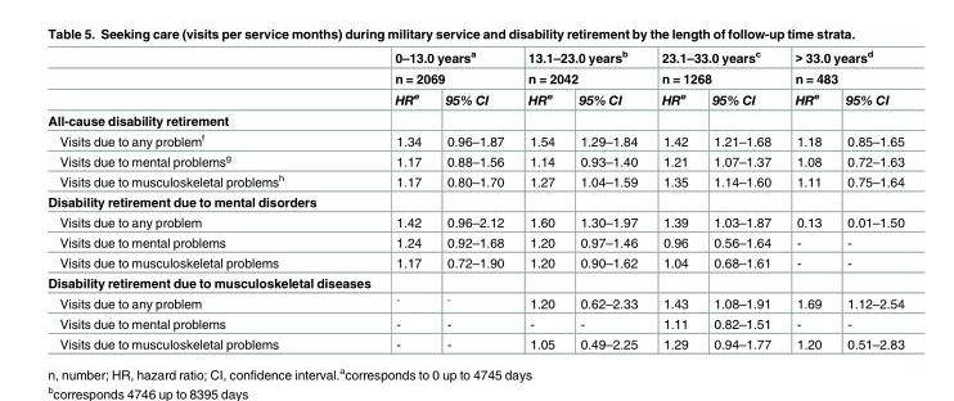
<table><thead><tr><td rowspan="3"></td><td rowspan="2" colspan="2">0–13.0 years<sup>a</sup> n = 2069</td><td rowspan="2" colspan="2">13.1–23.0 years<sup>b</sup> n = 2042</td><td rowspan="2" colspan="2">23.1–33.0 years<sup>c</sup> n = 1268</td><td rowspan="2" colspan="2">&gt; 33.0 years<sup>d</sup> n = 483</td></tr><tr></tr><tr><td>HR<sup>e</sup></td><td>95% CI</td><td>HR<sup>e</sup></td><td>95% CI</td><td>HR<sup>e</sup></td><td>95% CI</td><td>HR<sup>e</sup></td><td>95% CI</td></tr></thead><tbody><tr><td colspan="9">All-cause disability retirement</td></tr><tr><td>Visits due to any problem<sup>f</sup></td><td>1.34</td><td>0.96–1.87</td><td>1.54</td><td>1.29–1.84</td><td>1.42</td><td>1.21–1.68</td><td>1.18</td><td>0.85–1.65</td></tr><tr><td>Visits due to mental problems<sup>g</sup></td><td>1.17</td><td>0.88–1.56</td><td>1.14</td><td>0.93–1.40</td><td>1.21</td><td>1.07–1.37</td><td>1.08</td><td>0.72–1.63</td></tr><tr><td>Visits due to musculoskeletal problems<sup>h</sup></td><td>1.17</td><td>0.80–1.70</td><td>1.27</td><td>1.04–1.59</td><td>1.35</td><td>1.14–1.60</td><td>1.11</td><td>0.75–1.64</td></tr><tr><td colspan="9">Disability retirement due to mental disorders</td></tr><tr><td>Visits due to any problem</td><td>1.42</td><td>0.96–2.12</td><td>1.60</td><td>1.30–1.97</td><td>1.39</td><td>1.03–1.87</td><td>0.13</td><td>0.01–1.50</td></tr><tr><td>Visits due to mental problems</td><td>1.24</td><td>0.92–1.68</td><td>1.20</td><td>0.97–1.46</td><td>0.96</td><td>0.56–1.64</td><td>-</td><td>-</td></tr><tr><td>Visits due to musculoskeletal problems</td><td>1.17</td><td>0.72–1.90</td><td>1.20</td><td>0.90–1.62</td><td>1.04</td><td>0.68–1.61</td><td>-</td><td>-</td></tr><tr><td colspan="9">Disability retirement due to musculoskeletal diseases</td></tr><tr><td>Visits due to any problem</td><td><sup>-</sup></td><td><sup>-</sup></td><td>1.20</td><td>0.62–2.33</td><td>1.43</td><td>1.08–1.91</td><td>1.69</td><td>1.12–2.54</td></tr><tr><td>Visits due to mental problems</td><td>-</td><td>-</td><td>-</td><td>-</td><td>1.11</td><td>0.82–1.51</td><td>-</td><td>-</td></tr><tr><td>Visits due to musculoskeletal problems</td><td>-</td><td>-</td><td>1.05</td><td>0.49–2.25</td><td>1.29</td><td>0.94–1.77</td><td>1.20</td><td>0.51–2.83</td></tr></tbody></table>